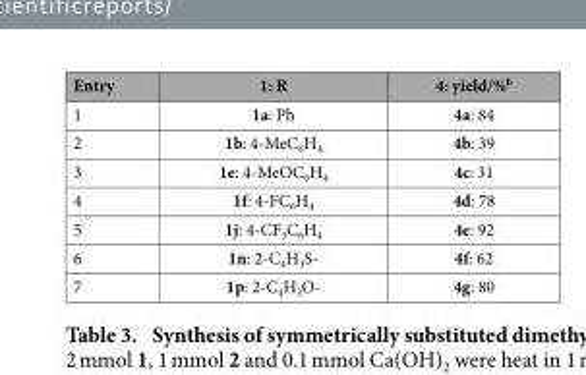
<table><thead><tr><td>Entry</td><td>1: R</td><td>4: yield/%<sup>b</sup></td></tr></thead><tbody><tr><td>1</td><td>1a: Ph</td><td>4a: 84</td></tr><tr><td>2</td><td>1b: 4-MeC<sub>6</sub>H<sub>4</sub></td><td>4b: 39</td></tr><tr><td>3</td><td>1e: 4-MeOC<sub>6</sub>H<sub>4</sub></td><td>4c: 31</td></tr><tr><td>4</td><td>1f: 4-FC<sub>6</sub>H<sub>4</sub></td><td>4d: 78</td></tr><tr><td>5</td><td>1j: 4-CF<sub>3</sub>C<sub>6</sub>H<sub>4</sub></td><td>4e: 92</td></tr><tr><td>6</td><td>1n: 2-C<sub>4</sub>H<sub>3</sub>S-</td><td>4f: 62</td></tr><tr><td>7</td><td>1p: 2-C<sub>4</sub>H<sub>3</sub>O-</td><td>4g: 80</td></tr></tbody></table>